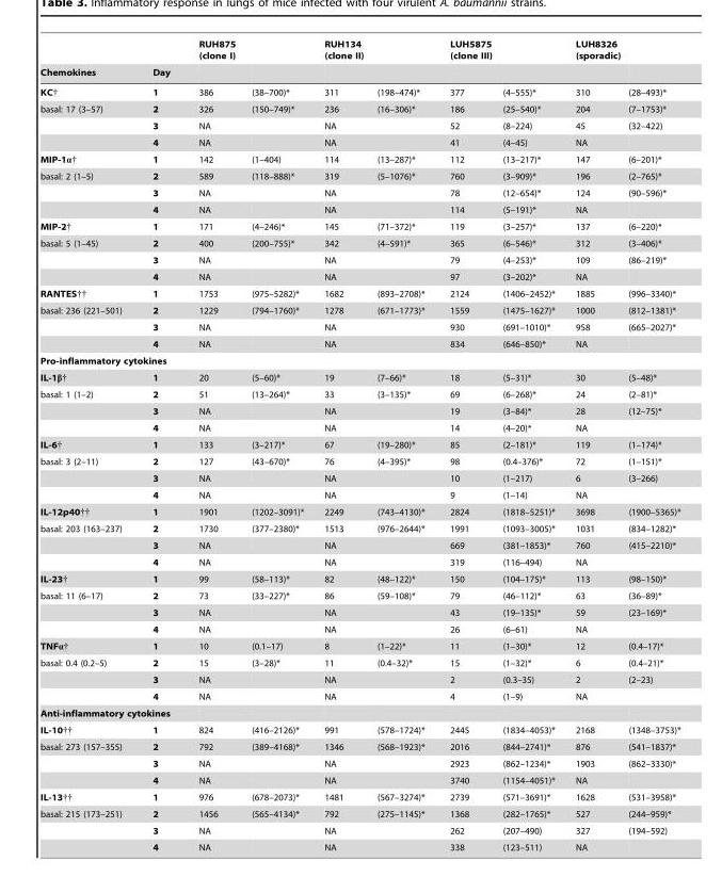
<table><thead><tr><td rowspan="2">Chemokines</td><td rowspan="2">Day</td><td colspan="2">RUH875 (clone I)</td><td colspan="2">RUH134 (clone II)</td><td colspan="2">LUH5875 (clone III)</td><td colspan="2">LUH8326 (sporadic)</td></tr><tr><td></td><td></td><td></td><td></td><td></td><td></td><td></td><td></td></tr></thead><tbody><tr><td>KC†</td><td>1</td><td>386</td><td>(38–700)*</td><td>311</td><td>(198–474)*</td><td>377</td><td>(4–555)*</td><td>310</td><td>(28–493)*</td></tr><tr><td rowspan="3">basal: 17 (3–57)</td><td>2</td><td>326</td><td>(150–749)*</td><td>236</td><td>(16–306)*</td><td>186</td><td>(25–540)*</td><td>204</td><td>(7–1753)*</td></tr><tr><td>3</td><td>NA</td><td></td><td>NA</td><td></td><td>52</td><td>(8–224)</td><td>45</td><td>(32–422)</td></tr><tr><td>4</td><td>NA</td><td></td><td>NA</td><td></td><td>41</td><td>(4–45)</td><td>NA</td><td></td></tr><tr><td>MIP-1α†</td><td>1</td><td>142</td><td>(1–404)</td><td>114</td><td>(13–287)*</td><td>112</td><td>(13–217)*</td><td>147</td><td>(6–201)*</td></tr><tr><td rowspan="3">basal: 2 (1–5)</td><td>2</td><td>589</td><td>(118–888)*</td><td>319</td><td>(5–1076)*</td><td>760</td><td>(3–909)*</td><td>196</td><td>(2–765)*</td></tr><tr><td>3</td><td>NA</td><td></td><td>NA</td><td></td><td>78</td><td>(12–654)*</td><td>124</td><td>(90–596)*</td></tr><tr><td>4</td><td>NA</td><td></td><td>NA</td><td></td><td>114</td><td>(5–191)*</td><td>NA</td><td></td></tr><tr><td>MIP-2†</td><td>1</td><td>171</td><td>(4–246)*</td><td>145</td><td>(71–372)*</td><td>119</td><td>(3–257)*</td><td>137</td><td>(6–220)*</td></tr><tr><td rowspan="3">basal: 5 (1–45)</td><td>2</td><td>400</td><td>(200–755)*</td><td>342</td><td>(4–591)*</td><td>365</td><td>(6–546)*</td><td>312</td><td>(3–406)*</td></tr><tr><td>3</td><td>NA</td><td></td><td>NA</td><td></td><td>79</td><td>(4–253)*</td><td>109</td><td>(86–219)*</td></tr><tr><td>4</td><td>NA</td><td></td><td>NA</td><td></td><td>97</td><td>(3–202)*</td><td>NA</td><td></td></tr><tr><td>RANTES††</td><td>1</td><td>1753</td><td>(975–5282)*</td><td>1682</td><td>(893–2708)*</td><td>2124</td><td>(1406–2452)*</td><td>1885</td><td>(996–3340)*</td></tr><tr><td rowspan="3">basal: 236 (221–501)</td><td>2</td><td>1229</td><td>(794–1760)*</td><td>1278</td><td>(671–1773)*</td><td>1559</td><td>(1475–1627)*</td><td>1000</td><td>(812–1381)*</td></tr><tr><td>3</td><td>NA</td><td></td><td>NA</td><td></td><td>930</td><td>(691–1010)*</td><td>958</td><td>(665–2027)*</td></tr><tr><td>4</td><td>NA</td><td></td><td>NA</td><td></td><td>834</td><td>(646–850)*</td><td>NA</td><td></td></tr><tr><td colspan="10">Pro-inflammatory cytokines</td></tr><tr><td>IL-1β†</td><td>1</td><td>20</td><td>(5–60)*</td><td>19</td><td>(7–66)*</td><td>18</td><td>(5–31)*</td><td>30</td><td>(5–48)*</td></tr><tr><td rowspan="3">basal: 1 (1–2)</td><td>2</td><td>51</td><td>(13–264)*</td><td>33</td><td>(3–135)*</td><td>69</td><td>(6–268)*</td><td>24</td><td>(2–81)*</td></tr><tr><td>3</td><td>NA</td><td></td><td>NA</td><td></td><td>19</td><td>(3–84)*</td><td>28</td><td>(12–75)*</td></tr><tr><td>4</td><td>NA</td><td></td><td>NA</td><td></td><td>14</td><td>(4–20)*</td><td>NA</td><td></td></tr><tr><td>IL-6†</td><td>1</td><td>133</td><td>(3–217)*</td><td>67</td><td>(19–280)*</td><td>85</td><td>(2–181)*</td><td>119</td><td>(1–174)*</td></tr><tr><td rowspan="3">basal: 3 (2–11)</td><td>2</td><td>127</td><td>(43–670)*</td><td>76</td><td>(4–395)*</td><td>98</td><td>(0.4–376)*</td><td>72</td><td>(1–151)*</td></tr><tr><td>3</td><td>NA</td><td></td><td>NA</td><td></td><td>10</td><td>(1–217)</td><td>6</td><td>(3–266)</td></tr><tr><td>4</td><td>NA</td><td></td><td>NA</td><td></td><td>9</td><td>(1–14)</td><td>NA</td><td></td></tr><tr><td>IL-12p40††</td><td>1</td><td>1901</td><td>(1202–3091)*</td><td>2249</td><td>(743–4130)*</td><td>2824</td><td>(1818–5251)*</td><td>3698</td><td>(1900–5365)*</td></tr><tr><td rowspan="3">basal: 203 (163–237)</td><td>2</td><td>1730</td><td>(377–2380)*</td><td>1513</td><td>(976–2644)*</td><td>1991</td><td>(1093–3005)*</td><td>1031</td><td>(834–1282)*</td></tr><tr><td>3</td><td>NA</td><td></td><td>NA</td><td></td><td>669</td><td>(381–1853)*</td><td>760</td><td>(415–2210)*</td></tr><tr><td>4</td><td>NA</td><td></td><td>NA</td><td></td><td>319</td><td>(116–494)</td><td>NA</td><td></td></tr><tr><td>IL-23†</td><td>1</td><td>99</td><td>(58–113)*</td><td>82</td><td>(48–122)*</td><td>150</td><td>(104–175)*</td><td>113</td><td>(98–150)*</td></tr><tr><td rowspan="3">basal: 11 (6–17)</td><td>2</td><td>73</td><td>(33–227)*</td><td>86</td><td>(59–108)*</td><td>79</td><td>(46–112)*</td><td>63</td><td>(36–89)*</td></tr><tr><td>3</td><td>NA</td><td></td><td>NA</td><td></td><td>43</td><td>(19–135)*</td><td>59</td><td>(23–169)*</td></tr><tr><td>4</td><td>NA</td><td></td><td>NA</td><td></td><td>26</td><td>(6–61)</td><td>NA</td><td></td></tr><tr><td>TNFα†</td><td>1</td><td>10</td><td>(0.1–17)</td><td>8</td><td>(1–22)*</td><td>11</td><td>(1–30)*</td><td>12</td><td>(0.4–17)*</td></tr><tr><td rowspan="3">basal: 0.4 (0.2–5)</td><td>2</td><td>15</td><td>(3–28)*</td><td>11</td><td>(0.4–32)*</td><td>15</td><td>(1–32)*</td><td>6</td><td>(0.4–21)*</td></tr><tr><td>3</td><td>NA</td><td></td><td>NA</td><td></td><td>2</td><td>(0.3–35)</td><td>2</td><td>(2–23)</td></tr><tr><td>4</td><td>NA</td><td></td><td>NA</td><td></td><td>4</td><td>(1–9)</td><td>NA</td><td></td></tr><tr><td colspan="10">Anti-inflammatory cytokines</td></tr><tr><td>IL-10††</td><td>1</td><td>824</td><td>(416–2126)*</td><td>991</td><td>(578–1724)*</td><td>2445</td><td>(1834–4053)*</td><td>2168</td><td>(1348–3753)*</td></tr><tr><td rowspan="3">basal: 273 (157–355)</td><td>2</td><td>792</td><td>(389–4168)*</td><td>1346</td><td>(568–1923)*</td><td>2016</td><td>(844–2741)*</td><td>876</td><td>(541–1837)*</td></tr><tr><td>3</td><td>NA</td><td></td><td>NA</td><td></td><td>2923</td><td>(862–1234)*</td><td>1903</td><td>(862–3330)*</td></tr><tr><td>4</td><td>NA</td><td></td><td>NA</td><td></td><td>3740</td><td>(1154–4051)*</td><td>NA</td><td></td></tr><tr><td>IL-13††</td><td>1</td><td>976</td><td>(678–2073)*</td><td>1481</td><td>(567–3274)*</td><td>2739</td><td>(571–3691)*</td><td>1628</td><td>(531–3958)*</td></tr><tr><td rowspan="3">basal: 215 (173–251)</td><td>2</td><td>1456</td><td>(565–4134)*</td><td>792</td><td>(275–1145)*</td><td>1368</td><td>(282–1765)*</td><td>527</td><td>(244–959)*</td></tr><tr><td>3</td><td>NA</td><td></td><td>NA</td><td></td><td>262</td><td>(207–490)</td><td>327</td><td>(194–592)</td></tr><tr><td>4</td><td>NA</td><td></td><td>NA</td><td></td><td>338</td><td>(123–511)</td><td>NA</td><td></td></tr></tbody></table>